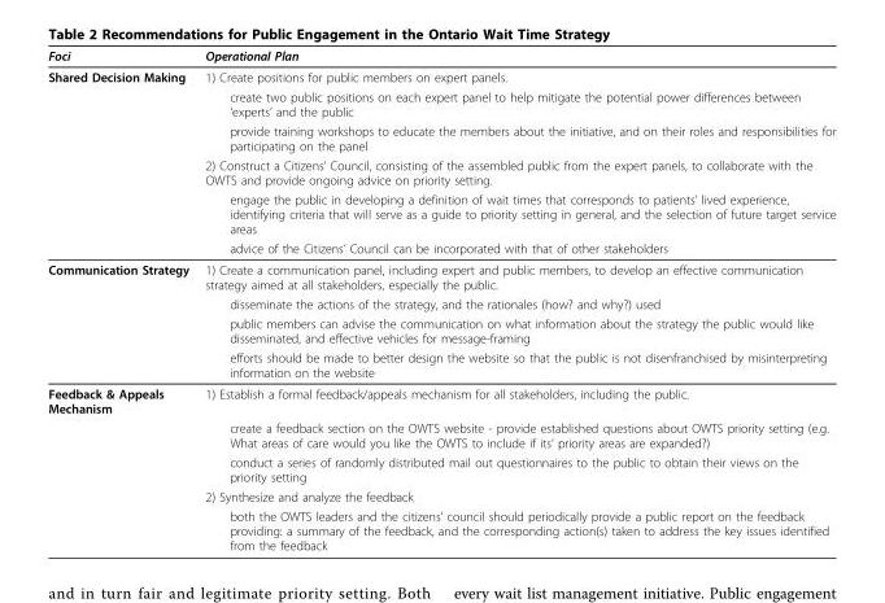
<table><thead><tr><td>Foci</td><td>Operational Plan</td></tr></thead><tbody><tr><td rowspan="6">Shared Decision Making</td><td>1) Create positions for public members on expert panels.</td></tr><tr><td>create two public positions on each expert panel to help mitigate the potential power differences between ‘experts’ and the public</td></tr><tr><td>provide training workshops to educate the members about the initiative, and on their roles and responsibilities for participating on the panel</td></tr><tr><td>2) Construct a Citizens’ Council, consisting of the assembled public from the expert panels, to collaborate with the OWTS and provide ongoing advice on priority setting.</td></tr><tr><td>engage the public in developing a definition of wait times that corresponds to patients’ lived experience, identifying criteria that will serve as a guide to priority setting in general, and the selection of future target service areas</td></tr><tr><td>advice of the Citizens’ Council can be incorporated with that of other stakeholders</td></tr><tr><td rowspan="4">Communication Strategy</td><td>1) Create a communication panel, including expert and public members, to develop an effective communication strategy aimed at all stakeholders, especially the public.</td></tr><tr><td>disseminate the actions of the strategy, and the rationales (how? and why?) used</td></tr><tr><td>public members can advise the communication on what information about the strategy the public would like disseminated, and effective vehicles for message-framing</td></tr><tr><td>efforts should be made to better design the website so that the public is not disenfranchised by misinterpreting information on the website</td></tr><tr><td rowspan="5">Feedback &amp; Appeals Mechanism</td><td>1) Establish a formal feedback/appeals mechanism for all stakeholders, including the public.</td></tr><tr><td>create a feedback section on the OWTS website - provide established questions about OWTS priority setting (e.g. What areas of care would you like the OWTS to include if its’ priority areas are expanded?)</td></tr><tr><td>conduct a series of randomly distributed mail out questionnaires to the public to obtain their views on the priority setting</td></tr><tr><td>2) Synthesize and analyze the feedback</td></tr><tr><td>both the OWTS leaders and the citizens’ council should periodically provide a public report on the feedback providing: a summary of the feedback, and the corresponding action(s) taken to address the key issues identified from the feedback</td></tr></tbody></table>